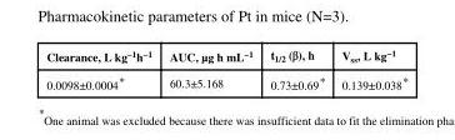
<table><thead><tr><td>Clearance, L kg<sup>−1</sup>h<sup>−1</sup></td><td>AUC, μg h mL<sup>−1</sup></td><td>t<sub>1/2</sub> (β), h</td><td>V<sub>ss</sub>, L kg<sup>−1</sup></td></tr></thead><tbody><tr><td>0.0098±0.0004*</td><td>60.3±5.168</td><td>0.73±0.69*</td><td>0.139±0.038*</td></tr></tbody></table>